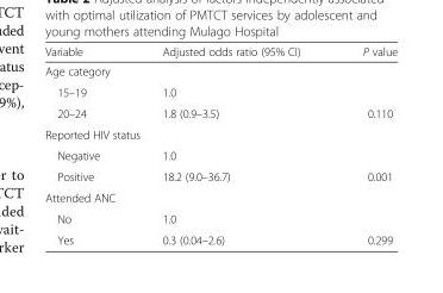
<table><thead><tr><td>Variable</td><td>Adjusted odds ratio (95% CI)</td><td>P value</td></tr></thead><tbody><tr><td colspan="3">Age category</td></tr><tr><td>15–19</td><td>1.0</td><td></td></tr><tr><td>20–24</td><td>1.8 (0.9–3.5)</td><td>0.110</td></tr><tr><td colspan="3">Reported HIV status</td></tr><tr><td>Negative</td><td>1.0</td><td></td></tr><tr><td>Positive</td><td>18.2 (9.0–36.7)</td><td>0.001</td></tr><tr><td colspan="3">Attended ANC</td></tr><tr><td>No</td><td>1.0</td><td></td></tr><tr><td>Yes</td><td>0.3 (0.04–2.6)</td><td>0.299</td></tr></tbody></table>